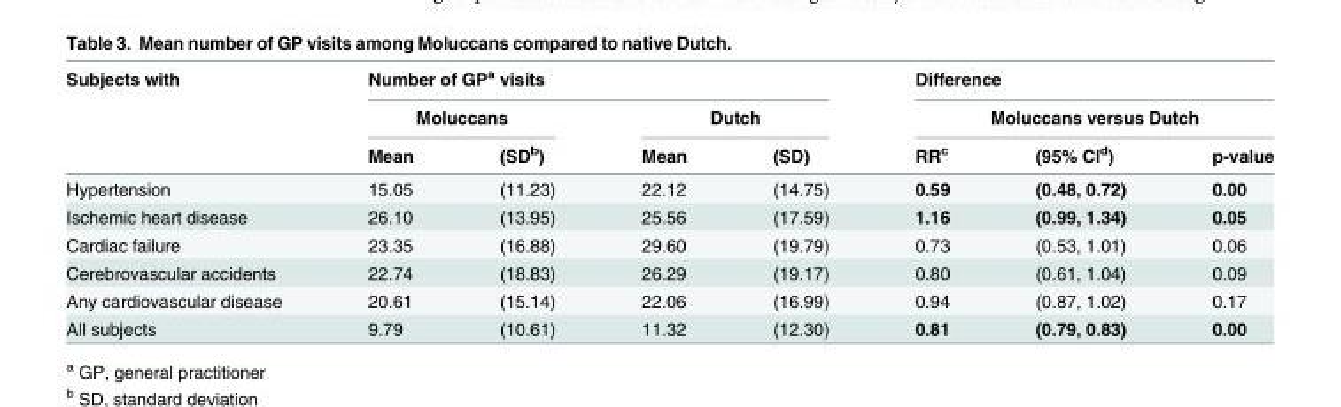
<table><thead><tr><td rowspan="3">Subjects with</td><td colspan="4">Number of GP<sup>a</sup> visits</td><td rowspan="2" colspan="3">Difference Moluccans versus Dutch</td></tr><tr><td colspan="2">Moluccans</td><td colspan="2">Dutch</td></tr><tr><td>Mean</td><td>(SD<sup>b</sup>)</td><td>Mean</td><td>(SD)</td><td>RR<sup>c</sup></td><td>(95% CI<sup>d</sup>)</td><td>p-value</td></tr></thead><tbody><tr><td>Hypertension</td><td>15.05</td><td>(11.23)</td><td>22.12</td><td>(14.75)</td><td>0.59</td><td>(0.48, 0.72)</td><td>0.00</td></tr><tr><td>Ischemic heart disease</td><td>26.10</td><td>(13.95)</td><td>25.56</td><td>(17.59)</td><td>1.16</td><td>(0.99, 1.34)</td><td>0.05</td></tr><tr><td>Cardiac failure</td><td>23.35</td><td>(16.88)</td><td>29.60</td><td>(19.79)</td><td>0.73</td><td>(0.53, 1.01)</td><td>0.06</td></tr><tr><td>Cerebrovascular accidents</td><td>22.74</td><td>(18.83)</td><td>26.29</td><td>(19.17)</td><td>0.80</td><td>(0.61, 1.04)</td><td>0.09</td></tr><tr><td>Any cardiovascular disease</td><td>20.61</td><td>(15.14)</td><td>22.06</td><td>(16.99)</td><td>0.94</td><td>(0.87, 1.02)</td><td>0.17</td></tr><tr><td>All subjects</td><td>9.79</td><td>(10.61)</td><td>11.32</td><td>(12.30)</td><td>0.81</td><td>(0.79, 0.83)</td><td>0.00</td></tr></tbody></table>